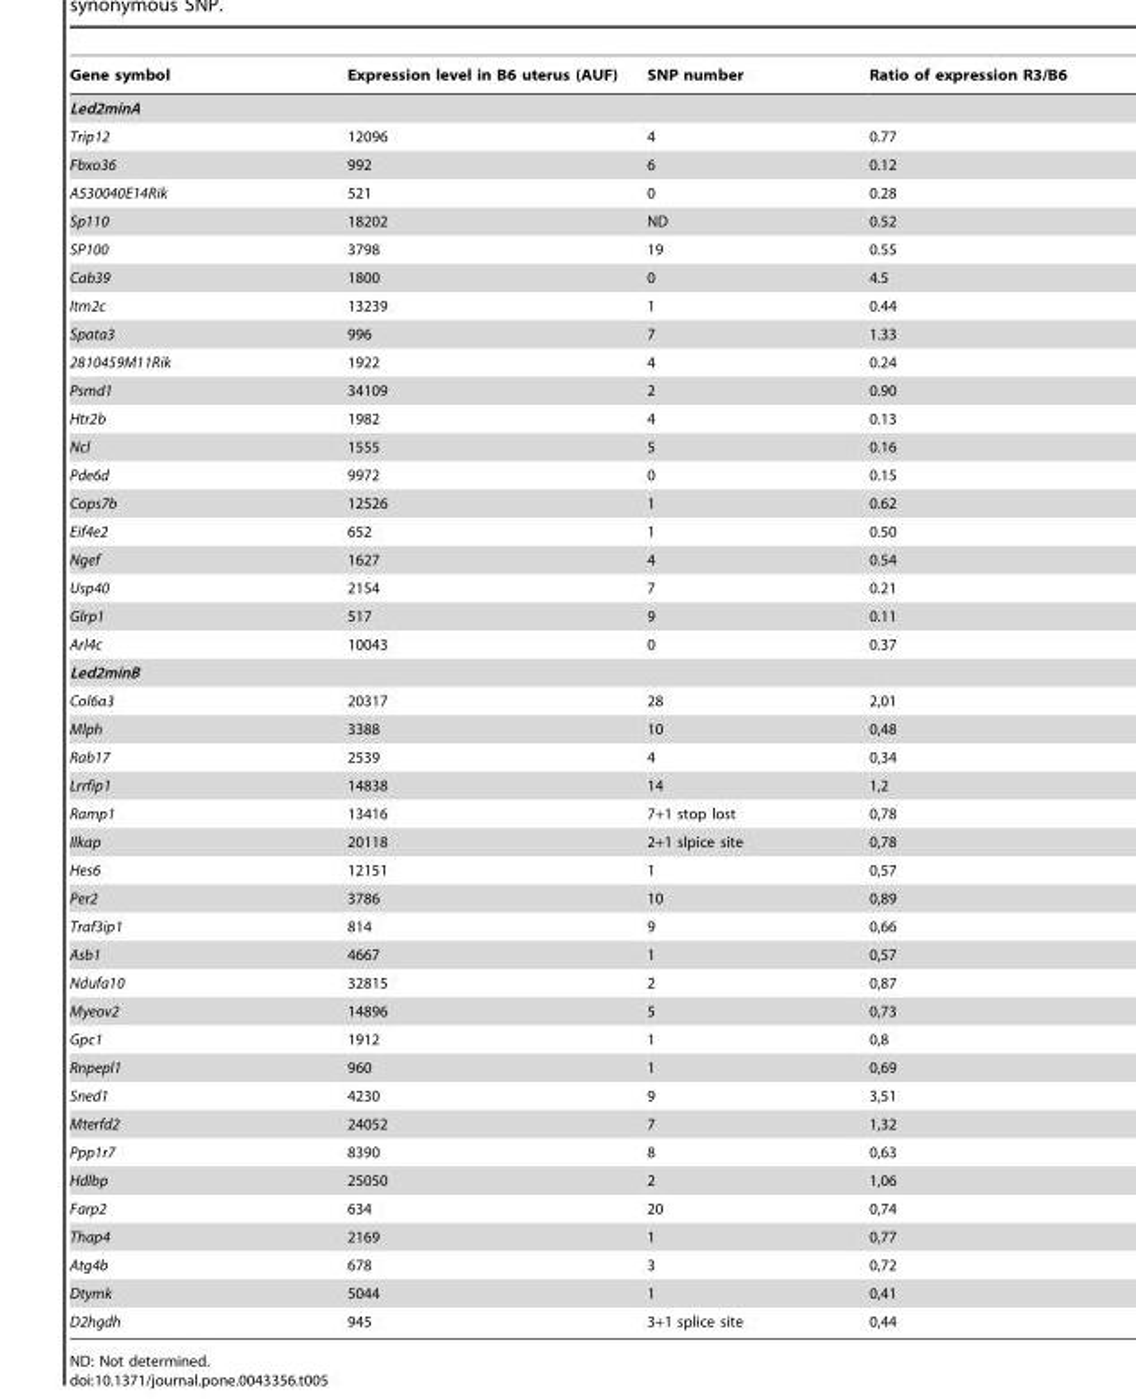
<table><thead><tr><td>Gene symbol</td><td>Expression level in B6 uterus (AUF)</td><td>SNP number</td><td>Ratio of expression R3/B6</td></tr></thead><tbody><tr><td colspan="4">Led2minA</td></tr><tr><td>Trip12</td><td>12096</td><td>4</td><td>0.77</td></tr><tr><td>Fbxo36</td><td>992</td><td>6</td><td>0.12</td></tr><tr><td>A530040E14Rik</td><td>521</td><td>0</td><td>0.28</td></tr><tr><td>Sp110</td><td>18202</td><td>ND</td><td>0.52</td></tr><tr><td>SP100</td><td>3798</td><td>19</td><td>0.55</td></tr><tr><td>Cab39</td><td>1800</td><td>0</td><td>4.5</td></tr><tr><td>Itm2c</td><td>13239</td><td>1</td><td>0.44</td></tr><tr><td>Spata3</td><td>996</td><td>7</td><td>1.33</td></tr><tr><td>2810459M11Rik</td><td>1922</td><td>4</td><td>0.24</td></tr><tr><td>Psmd1</td><td>34109</td><td>2</td><td>0.90</td></tr><tr><td>Htr2b</td><td>1982</td><td>4</td><td>0.13</td></tr><tr><td>Ncl</td><td>1555</td><td>5</td><td>0.16</td></tr><tr><td>Pde6d</td><td>9972</td><td>0</td><td>0.15</td></tr><tr><td>Cops7b</td><td>12526</td><td>1</td><td>0.62</td></tr><tr><td>Eif4e2</td><td>652</td><td>1</td><td>0.50</td></tr><tr><td>Ngef</td><td>1627</td><td>4</td><td>0.54</td></tr><tr><td>Usp40</td><td>2154</td><td>7</td><td>0.21</td></tr><tr><td>Glrp1</td><td>517</td><td>9</td><td>0.11</td></tr><tr><td>Arl4c</td><td>10043</td><td>0</td><td>0.37</td></tr><tr><td colspan="4">Led2minB</td></tr><tr><td>Col6a3</td><td>20317</td><td>28</td><td>2,01</td></tr><tr><td>Mlph</td><td>3388</td><td>10</td><td>0,48</td></tr><tr><td>Rab17</td><td>2539</td><td>4</td><td>0,34</td></tr><tr><td>Lrrfip1</td><td>14838</td><td>14</td><td>1,2</td></tr><tr><td>Ramp1</td><td>13416</td><td>7+1 stop lost</td><td>0,78</td></tr><tr><td>Ilkap</td><td>20118</td><td>2+1 slpice site</td><td>0,78</td></tr><tr><td>Hes6</td><td>12151</td><td>1</td><td>0,57</td></tr><tr><td>Per2</td><td>3786</td><td>10</td><td>0,89</td></tr><tr><td>Traf3ip1</td><td>814</td><td>9</td><td>0,66</td></tr><tr><td>Asb1</td><td>4667</td><td>1</td><td>0,57</td></tr><tr><td>Ndufa10</td><td>32815</td><td>2</td><td>0,87</td></tr><tr><td>Myeov2</td><td>14896</td><td>5</td><td>0,73</td></tr><tr><td>Gpc1</td><td>1912</td><td>1</td><td>0,8</td></tr><tr><td>Rnpepl1</td><td>960</td><td>1</td><td>0,69</td></tr><tr><td>Sned1</td><td>4230</td><td>9</td><td>3,51</td></tr><tr><td>Mterfd2</td><td>24052</td><td>7</td><td>1,32</td></tr><tr><td>Ppp1r7</td><td>8390</td><td>8</td><td>0,63</td></tr><tr><td>Hdlbp</td><td>25050</td><td>2</td><td>1,06</td></tr><tr><td>Farp2</td><td>634</td><td>20</td><td>0,74</td></tr><tr><td>Thap4</td><td>2169</td><td>1</td><td>0,77</td></tr><tr><td>Atg4b</td><td>678</td><td>3</td><td>0,72</td></tr><tr><td>Dtymk</td><td>5044</td><td>1</td><td>0,41</td></tr><tr><td>D2hgdh</td><td>945</td><td>3+1 splice site</td><td>0,44</td></tr></tbody></table>